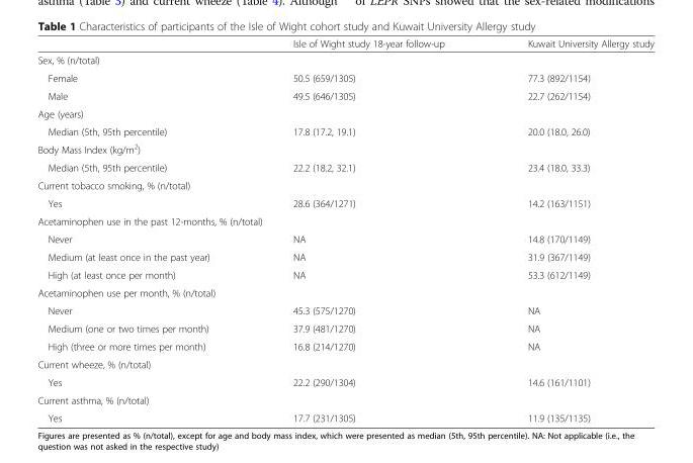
<table><thead><tr><td></td><td>Isle of Wight study 18-year follow-up</td><td>Kuwait University Allergy study</td></tr></thead><tbody><tr><td colspan="3">Sex, % (n/total)</td></tr><tr><td>Female</td><td>50.5 (659/1305)</td><td>77.3 (892/1154)</td></tr><tr><td>Male</td><td>49.5 (646/1305)</td><td>22.7 (262/1154)</td></tr><tr><td colspan="3">Age (years)</td></tr><tr><td>Median (5th, 95th percentile)</td><td>17.8 (17.2, 19.1)</td><td>20.0 (18.0, 26.0)</td></tr><tr><td colspan="3">Body Mass Index (kg/m<sup>2</sup>)</td></tr><tr><td>Median (5th, 95th percentile)</td><td>22.2 (18.2, 32.1)</td><td>23.4 (18.0, 33.3)</td></tr><tr><td colspan="3">Current tobacco smoking, % (n/total)</td></tr><tr><td>Yes</td><td>28.6 (364/1271)</td><td>14.2 (163/1151)</td></tr><tr><td colspan="3">Acetaminophen use in the past 12-months, % (n/total)</td></tr><tr><td>Never</td><td>NA</td><td>14.8 (170/1149)</td></tr><tr><td>Medium (at least once in the past year)</td><td>NA</td><td>31.9 (367/1149)</td></tr><tr><td>High (at least once per month)</td><td>NA</td><td>53.3 (612/1149)</td></tr><tr><td colspan="3">Acetaminophen use per month, % (n/total)</td></tr><tr><td>Never</td><td>45.3 (575/1270)</td><td>NA</td></tr><tr><td>Medium (one or two times per month)</td><td>37.9 (481/1270)</td><td>NA</td></tr><tr><td>High (three or more times per month)</td><td>16.8 (214/1270)</td><td>NA</td></tr><tr><td colspan="3">Current wheeze, % (n/total)</td></tr><tr><td>Yes</td><td>22.2 (290/1304)</td><td>14.6 (161/1101)</td></tr><tr><td colspan="3">Current asthma, % (n/total)</td></tr><tr><td>Yes</td><td>17.7 (231/1305)</td><td>11.9 (135/1135)</td></tr></tbody></table>